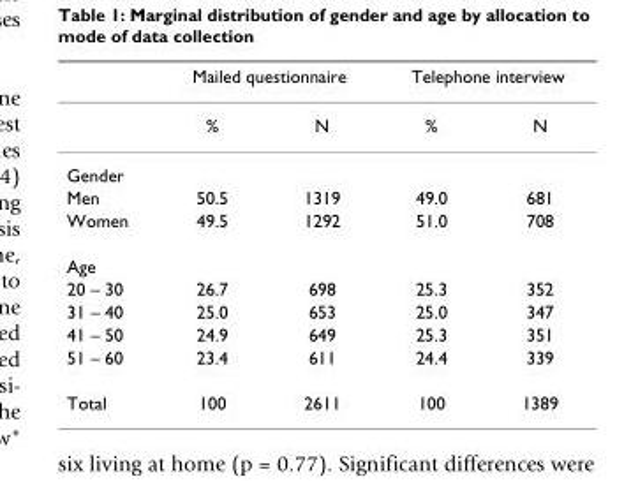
<table><thead><tr><td rowspan="2"></td><td colspan="2">Mailed questionnaire</td><td colspan="2">Telephone interview</td></tr><tr><td>%</td><td>N</td><td>%</td><td>N</td></tr></thead><tbody><tr><td colspan="5">Gender</td></tr><tr><td>Men</td><td>50.5</td><td>1319</td><td>49.0</td><td>681</td></tr><tr><td>Women</td><td>49.5</td><td>1292</td><td>51.0</td><td>708</td></tr><tr><td colspan="5">Age</td></tr><tr><td>20 – 30</td><td>26.7</td><td>698</td><td>25.3</td><td>352</td></tr><tr><td>31 – 40</td><td>25.0</td><td>653</td><td>25.0</td><td>347</td></tr><tr><td>41 – 50</td><td>24.9</td><td>649</td><td>25.3</td><td>351</td></tr><tr><td>51 – 60</td><td>23.4</td><td>611</td><td>24.4</td><td>339</td></tr><tr><td>Total</td><td>100</td><td>2611</td><td>100</td><td>1389</td></tr></tbody></table>